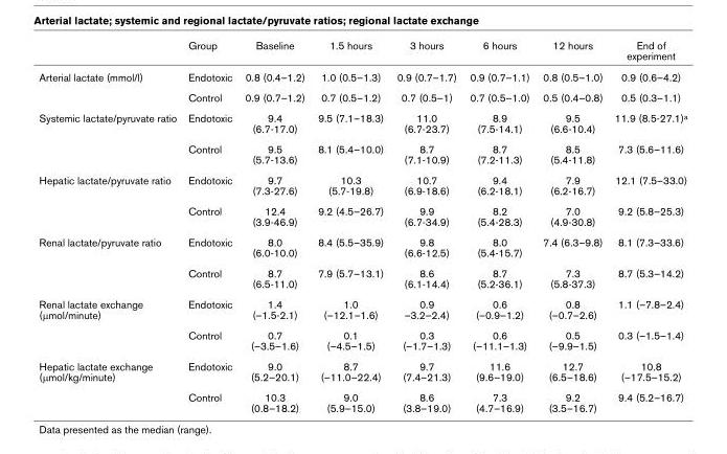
<table><thead><tr><td></td><td>Group</td><td>Baseline</td><td>1.5 hours</td><td>3 hours</td><td>6 hours</td><td>12 hours</td><td>End of experiment</td></tr></thead><tbody><tr><td rowspan="2">Arterial lactate (mmol/l)</td><td>Endotoxic</td><td>0.8 (0.4–1.2)</td><td>1.0 (0.5–1.3)</td><td>0.9 (0.7–1.7)</td><td>0.9 (0.7–1.1)</td><td>0.8 (0.5–1.0)</td><td>0.9 (0.6–4.2)</td></tr><tr><td>Control</td><td>0.9 (0.7–1.2)</td><td>0.7 (0.5–1.2)</td><td>0.7 (0.5–1)</td><td>0.7 (0.5–1.0)</td><td>0.5 (0.4–0.8)</td><td>0.5 (0.3–1.1)</td></tr><tr><td rowspan="2">Systemic lactate/pyruvate ratio</td><td>Endotoxic</td><td>9.4 (6.7-17.0)</td><td>9.5 (7.1–18.3)</td><td>11.0 (6.7-23.7)</td><td>8.9 (7.5-14.1)</td><td>9.5 (6.6-10.4)</td><td>11.9 (8.5-27.1)a</td></tr><tr><td>Control</td><td>9.5 (5.7-13.6)</td><td>8.1 (5.4–10.0)</td><td>8.7 (7.1-10.9)</td><td>8.7 (7.2-11.3)</td><td>8.5 (5.4-11.8)</td><td>7.3 (5.6–11.6)</td></tr><tr><td rowspan="2">Hepatic lactate/pyruvate ratio</td><td>Endotoxic</td><td>9.7 (7.3-27.6)</td><td>10.3 (5.7-19.8)</td><td>10.7 (6.9-18.6)</td><td>9.4 (6.2-18.1)</td><td>7.9 (6.2-16.7)</td><td>12.1 (7.5–33.0)</td></tr><tr><td>Control</td><td>12.4 (3.9-46.9)</td><td>9.2 (4.5–26.7)</td><td>9.9 (6.7-34.9)</td><td>8.2 (5.4-28.3)</td><td>7.0 (4.9-30.8)</td><td>9.2 (5.8–25.3)</td></tr><tr><td rowspan="2">Renal lactate/pyruvate ratio</td><td>Endotoxic</td><td>8.0 (6.0-10.0)</td><td>8.4 (5.5–35.9)</td><td>9.8 (6.6-12.5)</td><td>8.0 (5.4-15.7)</td><td>7.4 (6.3–9.8)</td><td>8.1 (7.3–33.6)</td></tr><tr><td>Control</td><td>8.7 (6.5-11.0)</td><td>7.9 (5.7–13.1)</td><td>8.6 (6.1-14.4)</td><td>8.7 (5.2-36.1)</td><td>7.3 (5.8-37.3)</td><td>8.7 (5.3–14.2)</td></tr><tr><td rowspan="2">Renal lactate exchange (μmol/minute)</td><td>Endotoxic</td><td>1.4 (–1.5-2.1)</td><td>1.0 (–12.1–1.6)</td><td>0.9 –3.2–2.4)</td><td>0.6 (–0.9–1.2)</td><td>0.8 (–0.7–2.6)</td><td>1.1 (–7.8–2.4)</td></tr><tr><td>Control</td><td>0.7 (–3.5–1.6)</td><td>0.1 (–4.5–1.5)</td><td>0.3 (–1.7–1.3)</td><td>0.6 (–11.1–1.3)</td><td>0.5 (–9.9–1.5)</td><td>0.3 (–1.5–1.4)</td></tr><tr><td rowspan="2">Hepatic lactate exchange (μmol/kg/minute)</td><td>Endotoxic</td><td>9.0 (5.2–20.1)</td><td>8.7 (–11.0–22.4)</td><td>9.7 (7.4–21.3)</td><td>11.6 (9.6–19.0)</td><td>12.7 (6.5–18.6)</td><td>10.8 (–17.5–15.2)</td></tr><tr><td>Control</td><td>10.3 (0.8–18.2)</td><td>9.0 (5.9–15.0)</td><td>8.6 (3.8–19.0)</td><td>7.3 (4.7–16.9)</td><td>9.2 (3.5–16.7)</td><td>9.4 (5.2–16.7)</td></tr></tbody></table>